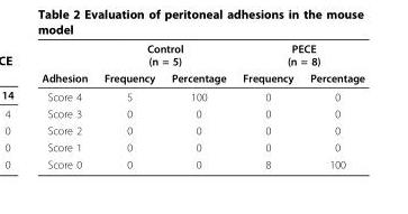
<table><thead><tr><td rowspan="2">Adhesion</td><td colspan="2">Control (n = 5)</td><td colspan="2">PECE (n = 8)</td></tr><tr><td>Frequency</td><td>Percentage</td><td>Frequency</td><td>Percentage</td></tr></thead><tbody><tr><td>Score 4</td><td>5</td><td>100</td><td>0</td><td>0</td></tr><tr><td>Score 3</td><td>0</td><td>0</td><td>0</td><td>0</td></tr><tr><td>Score 2</td><td>0</td><td>0</td><td>0</td><td>0</td></tr><tr><td>Score 1</td><td>0</td><td>0</td><td>0</td><td>0</td></tr><tr><td>Score 0</td><td>0</td><td>0</td><td>8</td><td>100</td></tr></tbody></table>